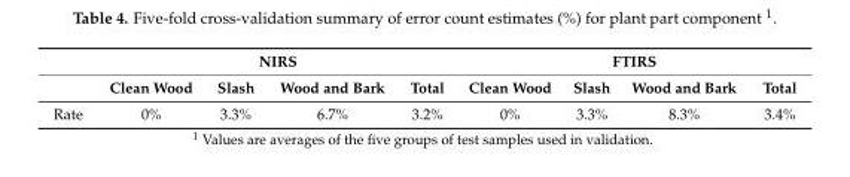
<table><thead><tr><td rowspan="2"></td><td colspan="4">NIRS</td><td colspan="4">FTIRS</td></tr><tr><td>Clean Wood</td><td>Slash</td><td>Wood and Bark</td><td>Total</td><td>Clean Wood</td><td>Slash</td><td>Wood and Bark</td><td>Total</td></tr></thead><tbody><tr><td>Rate</td><td>0%</td><td>3.3%</td><td>6.7%</td><td>3.2%</td><td>0%</td><td>3.3%</td><td>8.3%</td><td>3.4%</td></tr></tbody></table>